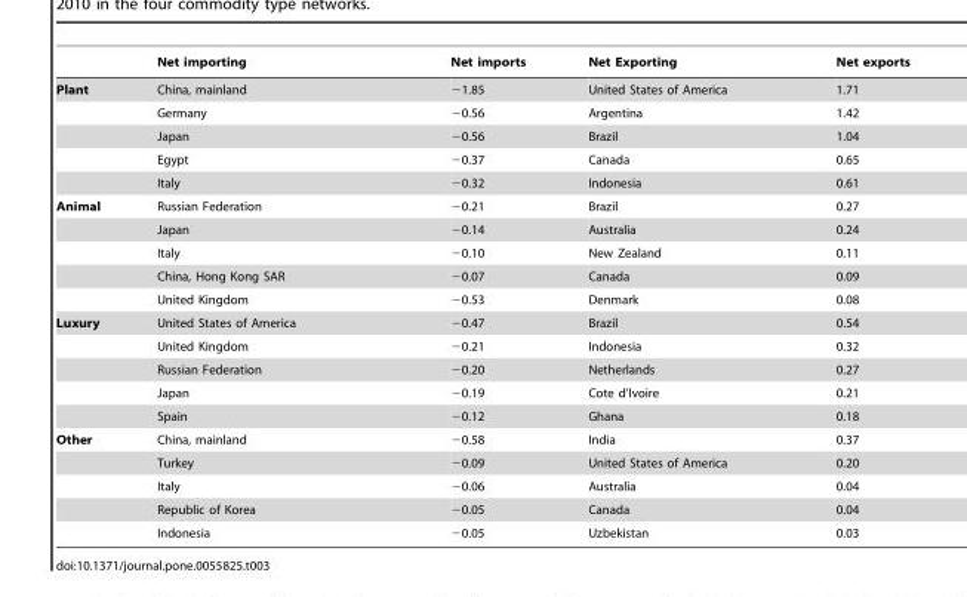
<table><thead><tr><td></td><td>Net importing</td><td>Net imports</td><td>Net Exporting</td><td>Net exports</td></tr></thead><tbody><tr><td rowspan="5">Plant</td><td>China, mainland</td><td>−1.85</td><td>United States of America</td><td>1.71</td></tr><tr><td>Germany</td><td>−0.56</td><td>Argentina</td><td>1.42</td></tr><tr><td>Japan</td><td>−0.56</td><td>Brazil</td><td>1.04</td></tr><tr><td>Egypt</td><td>−0.37</td><td>Canada</td><td>0.65</td></tr><tr><td>Italy</td><td>−0.32</td><td>Indonesia</td><td>0.61</td></tr><tr><td rowspan="5">Animal</td><td>Russian Federation</td><td>−0.21</td><td>Brazil</td><td>0.27</td></tr><tr><td>Japan</td><td>−0.14</td><td>Australia</td><td>0.24</td></tr><tr><td>Italy</td><td>−0.10</td><td>New Zealand</td><td>0.11</td></tr><tr><td>China, Hong Kong SAR</td><td>−0.07</td><td>Canada</td><td>0.09</td></tr><tr><td>United Kingdom</td><td>−0.53</td><td>Denmark</td><td>0.08</td></tr><tr><td rowspan="5">Luxury</td><td>United States of America</td><td>−0.47</td><td>Brazil</td><td>0.54</td></tr><tr><td>United Kingdom</td><td>−0.21</td><td>Indonesia</td><td>0.32</td></tr><tr><td>Russian Federation</td><td>−0.20</td><td>Netherlands</td><td>0.27</td></tr><tr><td>Japan</td><td>−0.19</td><td>Cote d’Ivoire</td><td>0.21</td></tr><tr><td>Spain</td><td>−0.12</td><td>Ghana</td><td>0.18</td></tr><tr><td rowspan="5">Other</td><td>China, mainland</td><td>−0.58</td><td>India</td><td>0.37</td></tr><tr><td>Turkey</td><td>−0.09</td><td>United States of America</td><td>0.20</td></tr><tr><td>Italy</td><td>−0.06</td><td>Australia</td><td>0.04</td></tr><tr><td>Republic of Korea</td><td>−0.05</td><td>Canada</td><td>0.04</td></tr><tr><td>Indonesia</td><td>−0.05</td><td>Uzbekistan</td><td>0.03</td></tr></tbody></table>